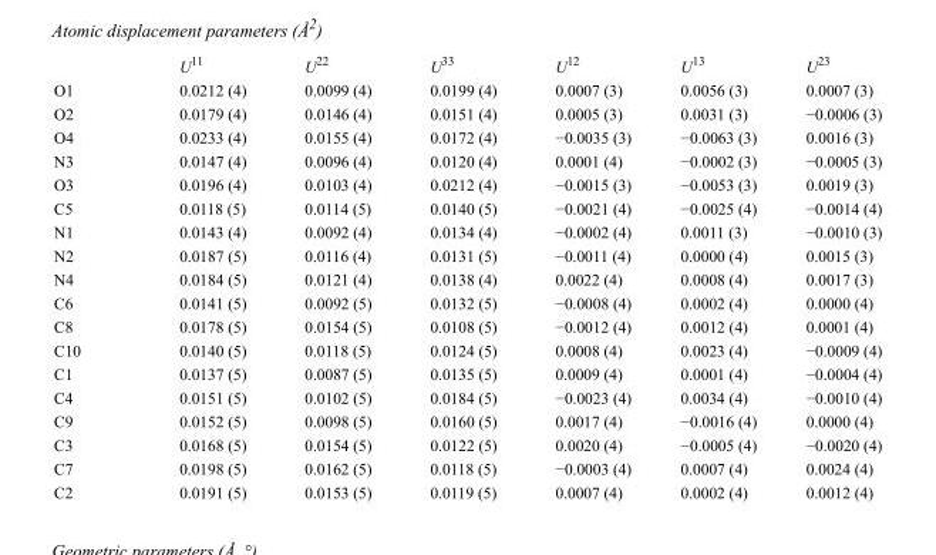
<table><thead><tr><td></td><td>U<sup>11</sup></td><td>U<sup>22</sup></td><td>U<sup>33</sup></td><td>U<sup>12</sup></td><td>U<sup>13</sup></td><td>U<sup>23</sup></td></tr></thead><tbody><tr><td>O1</td><td>0.0212 (4)</td><td>0.0099 (4)</td><td>0.0199 (4)</td><td>0.0007 (3)</td><td>0.0056 (3)</td><td>0.0007 (3)</td></tr><tr><td>O2</td><td>0.0179 (4)</td><td>0.0146 (4)</td><td>0.0151 (4)</td><td>0.0005 (3)</td><td>0.0031 (3)</td><td>−0.0006 (3)</td></tr><tr><td>O4</td><td>0.0233 (4)</td><td>0.0155 (4)</td><td>0.0172 (4)</td><td>−0.0035 (3)</td><td>−0.0063 (3)</td><td>0.0016 (3)</td></tr><tr><td>N3</td><td>0.0147 (4)</td><td>0.0096 (4)</td><td>0.0120 (4)</td><td>0.0001 (4)</td><td>−0.0002 (3)</td><td>−0.0005 (3)</td></tr><tr><td>O3</td><td>0.0196 (4)</td><td>0.0103 (4)</td><td>0.0212 (4)</td><td>−0.0015 (3)</td><td>−0.0053 (3)</td><td>0.0019 (3)</td></tr><tr><td>C5</td><td>0.0118 (5)</td><td>0.0114 (5)</td><td>0.0140 (5)</td><td>−0.0021 (4)</td><td>−0.0025 (4)</td><td>−0.0014 (4)</td></tr><tr><td>N1</td><td>0.0143 (4)</td><td>0.0092 (4)</td><td>0.0134 (4)</td><td>−0.0002 (4)</td><td>0.0011 (3)</td><td>−0.0010 (3)</td></tr><tr><td>N2</td><td>0.0187 (5)</td><td>0.0116 (4)</td><td>0.0131 (5)</td><td>−0.0011 (4)</td><td>0.0000 (4)</td><td>0.0015 (3)</td></tr><tr><td>N4</td><td>0.0184 (5)</td><td>0.0121 (4)</td><td>0.0138 (4)</td><td>0.0022 (4)</td><td>0.0008 (4)</td><td>0.0017 (3)</td></tr><tr><td>C6</td><td>0.0141 (5)</td><td>0.0092 (5)</td><td>0.0132 (5)</td><td>−0.0008 (4)</td><td>0.0002 (4)</td><td>0.0000 (4)</td></tr><tr><td>C8</td><td>0.0178 (5)</td><td>0.0154 (5)</td><td>0.0108 (5)</td><td>−0.0012 (4)</td><td>0.0012 (4)</td><td>0.0001 (4)</td></tr><tr><td>C10</td><td>0.0140 (5)</td><td>0.0118 (5)</td><td>0.0124 (5)</td><td>0.0008 (4)</td><td>0.0023 (4)</td><td>−0.0009 (4)</td></tr><tr><td>C1</td><td>0.0137 (5)</td><td>0.0087 (5)</td><td>0.0135 (5)</td><td>0.0009 (4)</td><td>0.0001 (4)</td><td>−0.0004 (4)</td></tr><tr><td>C4</td><td>0.0151 (5)</td><td>0.0102 (5)</td><td>0.0184 (5)</td><td>−0.0023 (4)</td><td>0.0034 (4)</td><td>−0.0010 (4)</td></tr><tr><td>C9</td><td>0.0152 (5)</td><td>0.0098 (5)</td><td>0.0160 (5)</td><td>0.0017 (4)</td><td>−0.0016 (4)</td><td>0.0000 (4)</td></tr><tr><td>C3</td><td>0.0168 (5)</td><td>0.0154 (5)</td><td>0.0122 (5)</td><td>0.0020 (4)</td><td>−0.0005 (4)</td><td>−0.0020 (4)</td></tr><tr><td>C7</td><td>0.0198 (5)</td><td>0.0162 (5)</td><td>0.0118 (5)</td><td>−0.0003 (4)</td><td>0.0007 (4)</td><td>0.0024 (4)</td></tr><tr><td>C2</td><td>0.0191 (5)</td><td>0.0153 (5)</td><td>0.0119 (5)</td><td>0.0007 (4)</td><td>0.0002 (4)</td><td>0.0012 (4)</td></tr></tbody></table>